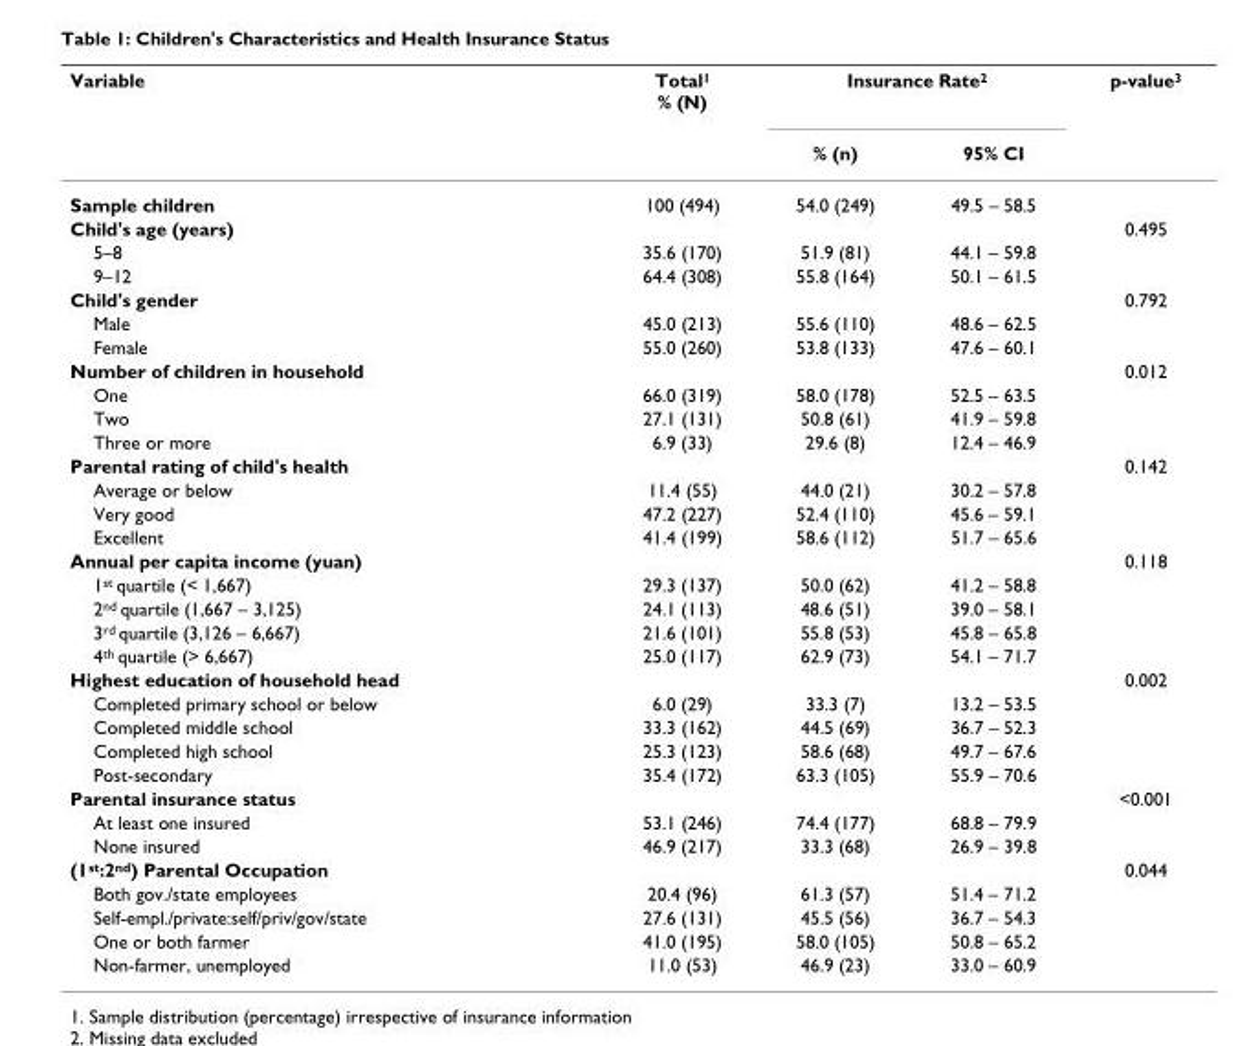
<table><thead><tr><td rowspan="2">Variable</td><td rowspan="2">Total<sup>1</sup> % (N)</td><td colspan="2">Insurance Rate<sup>2</sup></td><td rowspan="2">p-value<sup>3</sup></td></tr><tr><td>% (n)</td><td>95% CI</td></tr></thead><tbody><tr><td>Sample children</td><td>100 (494)</td><td>54.0 (249)</td><td>49.5 – 58.5</td><td></td></tr><tr><td>Child&#x27;s age (years)</td><td></td><td></td><td></td><td>0.495</td></tr><tr><td>5–8</td><td>35.6 (170)</td><td>51.9 (81)</td><td>44.1 – 59.8</td><td></td></tr><tr><td>9–12</td><td>64.4 (308)</td><td>55.8 (164)</td><td>50.1 – 61.5</td><td></td></tr><tr><td>Child&#x27;s gender</td><td></td><td></td><td></td><td>0.792</td></tr><tr><td>Male</td><td>45.0 (213)</td><td>55.6 (110)</td><td>48.6 – 62.5</td><td></td></tr><tr><td>Female</td><td>55.0 (260)</td><td>53.8 (133)</td><td>47.6 – 60.1</td><td></td></tr><tr><td>Number of children in household</td><td></td><td></td><td></td><td>0.012</td></tr><tr><td>One</td><td>66.0 (319)</td><td>58.0 (178)</td><td>52.5 – 63.5</td><td></td></tr><tr><td>Two</td><td>27.1 (131)</td><td>50.8 (61)</td><td>41.9 – 59.8</td><td></td></tr><tr><td>Three or more</td><td>6.9 (33)</td><td>29.6 (8)</td><td>12.4 – 46.9</td><td></td></tr><tr><td>Parental rating of child&#x27;s health</td><td></td><td></td><td></td><td>0.142</td></tr><tr><td>Average or below</td><td>11.4 (55)</td><td>44.0 (21)</td><td>30.2 – 57.8</td><td></td></tr><tr><td>Very good</td><td>47.2 (227)</td><td>52.4 (110)</td><td>45.6 – 59.1</td><td></td></tr><tr><td>Excellent</td><td>41.4 (199)</td><td>58.6 (112)</td><td>51.7 – 65.6</td><td></td></tr><tr><td>Annual per capita income (yuan)</td><td></td><td></td><td></td><td>0.118</td></tr><tr><td>1<sup>st</sup> quartile (&lt; 1,667)</td><td>29.3 (137)</td><td>50.0 (62)</td><td>41.2 – 58.8</td><td></td></tr><tr><td>2<sup>nd</sup> quartile (1,667 – 3,125)</td><td>24.1 (113)</td><td>48.6 (51)</td><td>39.0 – 58.1</td><td></td></tr><tr><td>3<sup>rd</sup> quartile (3,126 – 6,667)</td><td>21.6 (101)</td><td>55.8 (53)</td><td>45.8 – 65.8</td><td></td></tr><tr><td>4<sup>th</sup> quartile (&gt; 6,667)</td><td>25.0 (117)</td><td>62.9 (73)</td><td>54.1 – 71.7</td><td></td></tr><tr><td>Highest education of household head</td><td></td><td></td><td></td><td>0.002</td></tr><tr><td>Completed primary school or below</td><td>6.0 (29)</td><td>33.3 (7)</td><td>13.2 – 53.5</td><td></td></tr><tr><td>Completed middle school</td><td>33.3 (162)</td><td>44.5 (69)</td><td>36.7 – 52.3</td><td></td></tr><tr><td>Completed high school</td><td>25.3 (123)</td><td>58.6 (68)</td><td>49.7 – 67.6</td><td></td></tr><tr><td>Post-secondary</td><td>35.4 (172)</td><td>63.3 (105)</td><td>55.9 – 70.6</td><td></td></tr><tr><td>Parental insurance status</td><td></td><td></td><td></td><td>&lt;0.001</td></tr><tr><td>At least one insured</td><td>53.1 (246)</td><td>74.4 (177)</td><td>68.8 – 79.9</td><td></td></tr><tr><td>None insured</td><td>46.9 (217)</td><td>33.3 (68)</td><td>26.9 – 39.8</td><td></td></tr><tr><td>(1<sup>st</sup>:2<sup>nd</sup>) Parental Occupation</td><td></td><td></td><td></td><td>0.044</td></tr><tr><td>Both gov./state employees</td><td>20.4 (96)</td><td>61.3 (57)</td><td>51.4 – 71.2</td><td></td></tr><tr><td>Self-empl./private:self/priv/gov/state</td><td>27.6 (131)</td><td>45.5 (56)</td><td>36.7 – 54.3</td><td></td></tr><tr><td>One or both farmer</td><td>41.0 (195)</td><td>58.0 (105)</td><td>50.8 – 65.2</td><td></td></tr><tr><td>Non-farmer, unemployed</td><td>11.0 (53)</td><td>46.9 (23)</td><td>33.0 – 60.9</td><td></td></tr></tbody></table>